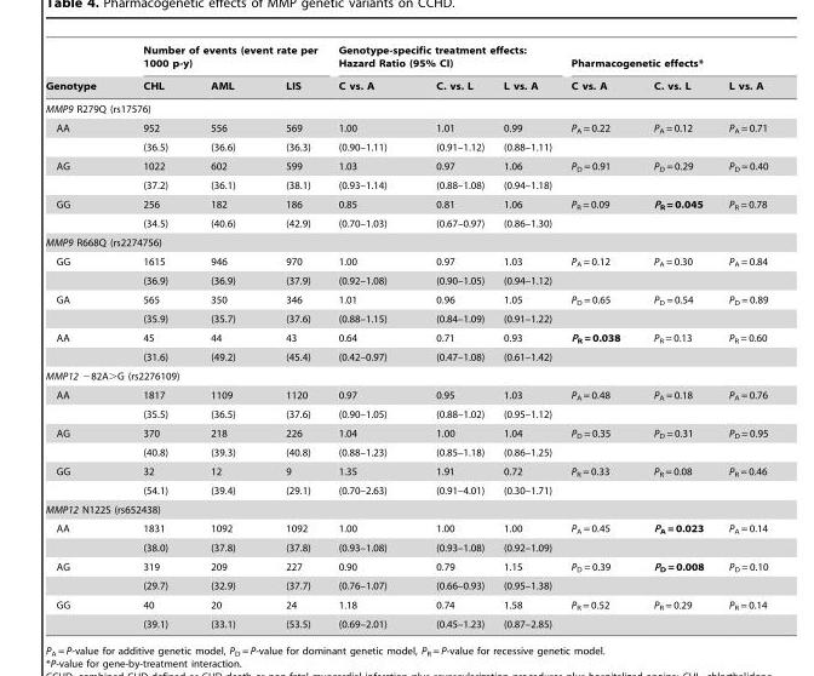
<table><thead><tr><td rowspan="2">Genotype</td><td colspan="3">Number of events (event rate per 1000 p-y)</td><td colspan="3">Genotype-specific treatment effects: Hazard Ratio (95% CI)</td><td colspan="3">Pharmacogenetic effects*</td></tr><tr><td>CHL</td><td>AML</td><td>LIS</td><td>C vs. A</td><td>C. vs. L</td><td>L vs. A</td><td>C vs. A</td><td>C. vs. L</td><td>L vs. A</td></tr></thead><tbody><tr><td colspan="10">MMP9 R279Q (rs17576)</td></tr><tr><td rowspan="2">AA</td><td>952</td><td>556</td><td>569</td><td>1.00</td><td>1.01</td><td>0.99</td><td>P<sub>A</sub> = 0.22</td><td>P<sub>A</sub> = 0.12</td><td>P<sub>A</sub> = 0.71</td></tr><tr><td>(36.5)</td><td>(36.6)</td><td>(36.3)</td><td>(0.90–1.11)</td><td>(0.91–1.12)</td><td>(0.88–1.11)</td><td></td><td></td><td></td></tr><tr><td rowspan="2">AG</td><td>1022</td><td>602</td><td>599</td><td>1.03</td><td>0.97</td><td>1.06</td><td>P<sub>D</sub> = 0.91</td><td>P<sub>D</sub> = 0.29</td><td>P<sub>D</sub> = 0.40</td></tr><tr><td>(37.2)</td><td>(36.1)</td><td>(38.1)</td><td>(0.93–1.14)</td><td>(0.88–1.08)</td><td>(0.94–1.18)</td><td></td><td></td><td></td></tr><tr><td rowspan="2">GG</td><td>256</td><td>182</td><td>186</td><td>0.85</td><td>0.81</td><td>1.06</td><td>P<sub>R</sub> = 0.09</td><td>P<sub>R</sub> = 0.045</td><td>P<sub>R</sub> = 0.78</td></tr><tr><td>(34.5)</td><td>(40.6)</td><td>(42.9)</td><td>(0.70–1.03)</td><td>(0.67–0.97)</td><td>(0.86–1.30)</td><td></td><td></td><td></td></tr><tr><td colspan="10">MMP9 R668Q (rs2274756)</td></tr><tr><td rowspan="2">GG</td><td>1615</td><td>946</td><td>970</td><td>1.00</td><td>0.97</td><td>1.03</td><td>P<sub>A</sub> = 0.12</td><td>P<sub>A</sub> = 0.30</td><td>P<sub>A</sub> = 0.84</td></tr><tr><td>(36.9)</td><td>(36.9)</td><td>(37.9)</td><td>(0.92–1.08)</td><td>(0.90–1.05)</td><td>(0.94–1.12)</td><td></td><td></td><td></td></tr><tr><td rowspan="2">GA</td><td>565</td><td>350</td><td>346</td><td>1.01</td><td>0.96</td><td>1.05</td><td>P<sub>D</sub> = 0.65</td><td>P<sub>D</sub> = 0.54</td><td>P<sub>D</sub> = 0.89</td></tr><tr><td>(35.9)</td><td>(35.7)</td><td>(37.6)</td><td>(0.88–1.15)</td><td>(0.84–1.09)</td><td>(0.91–1.22)</td><td></td><td></td><td></td></tr><tr><td rowspan="2">AA</td><td>45</td><td>44</td><td>43</td><td>0.64</td><td>0.71</td><td>0.93</td><td>P<sub>R</sub> = 0.038</td><td>P<sub>R</sub> = 0.13</td><td>P<sub>R</sub> = 0.60</td></tr><tr><td>(31.6)</td><td>(49.2)</td><td>(45.4)</td><td>(0.42–0.97)</td><td>(0.47–1.08)</td><td>(0.61–1.42)</td><td></td><td></td><td></td></tr><tr><td colspan="10">MMP12 −82A&gt;G (rs2276109)</td></tr><tr><td rowspan="2">AA</td><td>1817</td><td>1109</td><td>1120</td><td>0.97</td><td>0.95</td><td>1.03</td><td>P<sub>A</sub> = 0.48</td><td>P<sub>A</sub> = 0.18</td><td>P<sub>A</sub> = 0.76</td></tr><tr><td>(35.5)</td><td>(36.5)</td><td>(37.6)</td><td>(0.90–1.05)</td><td>(0.88–1.02)</td><td>(0.95–1.12)</td><td></td><td></td><td></td></tr><tr><td rowspan="2">AG</td><td>370</td><td>218</td><td>226</td><td>1.04</td><td>1.00</td><td>1.04</td><td>P<sub>D</sub> = 0.35</td><td>P<sub>D</sub> = 0.31</td><td>P<sub>D</sub> = 0.95</td></tr><tr><td>(40.8)</td><td>(39.3)</td><td>(40.8)</td><td>(0.88–1.23)</td><td>(0.85–1.18)</td><td>(0.86–1.25)</td><td></td><td></td><td></td></tr><tr><td rowspan="2">GG</td><td>32</td><td>12</td><td>9</td><td>1.35</td><td>1.91</td><td>0.72</td><td>P<sub>R</sub> = 0.33</td><td>P<sub>R</sub> = 0.08</td><td>P<sub>R</sub> = 0.46</td></tr><tr><td>(54.1)</td><td>(39.4)</td><td>(29.1)</td><td>(0.70–2.63)</td><td>(0.91–4.01)</td><td>(0.30–1.71)</td><td></td><td></td><td></td></tr><tr><td colspan="10">MMP12 N122S (rs652438)</td></tr><tr><td rowspan="2">AA</td><td>1831</td><td>1092</td><td>1092</td><td>1.00</td><td>1.00</td><td>1.00</td><td>P<sub>A</sub> = 0.45</td><td>P<sub>A</sub> = 0.023</td><td>P<sub>A</sub> = 0.14</td></tr><tr><td>(38.0)</td><td>(37.8)</td><td>(37.8)</td><td>(0.93–1.08)</td><td>(0.93–1.08)</td><td>(0.92–1.09)</td><td></td><td></td><td></td></tr><tr><td rowspan="2">AG</td><td>319</td><td>209</td><td>227</td><td>0.90</td><td>0.79</td><td>1.15</td><td>P<sub>D</sub> = 0.39</td><td>P<sub>D</sub> = 0.008</td><td>P<sub>D</sub> = 0.10</td></tr><tr><td>(29.7)</td><td>(32.9)</td><td>(37.7)</td><td>(0.76–1.07)</td><td>(0.66–0.93)</td><td>(0.95–1.38)</td><td></td><td></td><td></td></tr><tr><td rowspan="2">GG</td><td>40</td><td>20</td><td>24</td><td>1.18</td><td>0.74</td><td>1.58</td><td>P<sub>R</sub> = 0.52</td><td>P<sub>R</sub> = 0.29</td><td>P<sub>R</sub> = 0.14</td></tr><tr><td>(39.1)</td><td>(33.1)</td><td>(53.5)</td><td>(0.69–2.01)</td><td>(0.45–1.23)</td><td>(0.87–2.85)</td><td></td><td></td><td></td></tr></tbody></table>